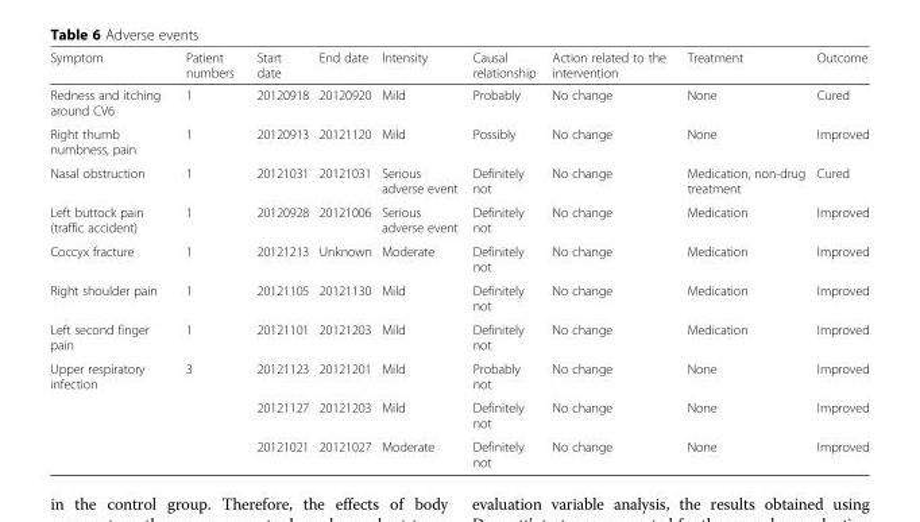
<table><thead><tr><td>Symptom</td><td>Patient numbers</td><td>Start date</td><td>End date</td><td>Intensity</td><td>Causal relationship</td><td>Action related to the intervention</td><td>Treatment</td><td>Outcome</td></tr></thead><tbody><tr><td>Redness and itching around CV6</td><td>1</td><td>20120918</td><td>20120920</td><td>Mild</td><td>Probably</td><td>No change</td><td>None</td><td>Cured</td></tr><tr><td>Right thumb numbness, pain</td><td>1</td><td>20120913</td><td>20121120</td><td>Mild</td><td>Possibly</td><td>No change</td><td>None</td><td>Improved</td></tr><tr><td>Nasal obstruction</td><td>1</td><td>20121031</td><td>20121031</td><td>Serious adverse event</td><td>Definitely not</td><td>No change</td><td>Medication, non-drug treatment</td><td>Cured</td></tr><tr><td>Left buttock pain (traffic accident)</td><td>1</td><td>20120928</td><td>20121006</td><td>Serious adverse event</td><td>Definitely not</td><td>No change</td><td>Medication</td><td>Improved</td></tr><tr><td>Coccyx fracture</td><td>1</td><td>20121213</td><td>Unknown</td><td>Moderate</td><td>Definitely not</td><td>No change</td><td>Medication</td><td>Improved</td></tr><tr><td>Right shoulder pain</td><td>1</td><td>20121105</td><td>20121130</td><td>Mild</td><td>Definitely not</td><td>No change</td><td>Medication</td><td>Improved</td></tr><tr><td>Left second finger pain</td><td>1</td><td>20121101</td><td>20121203</td><td>Mild</td><td>Definitely not</td><td>No change</td><td>Medication</td><td>Improved</td></tr><tr><td rowspan="3">Upper respiratory infection</td><td rowspan="3">3</td><td>20121123</td><td>20121201</td><td>Mild</td><td>Probably not</td><td>No change</td><td>None</td><td>Improved</td></tr><tr><td>20121127</td><td>20121203</td><td>Mild</td><td>Definitely not</td><td>No change</td><td>None</td><td>Improved</td></tr><tr><td>20121021</td><td>20121027</td><td>Moderate</td><td>Definitely not</td><td>No change</td><td>None</td><td>Improved</td></tr></tbody></table>